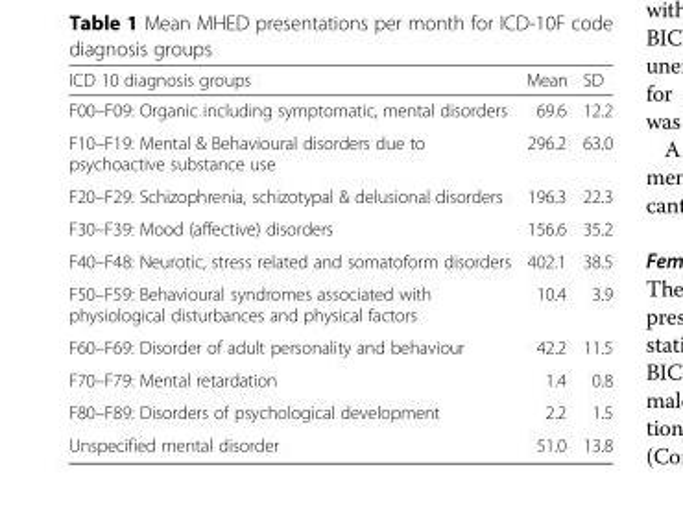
<table><thead><tr><td>ICD 10 diagnosis groups</td><td>Mean</td><td>SD</td></tr></thead><tbody><tr><td>F00–F09: Organic including symptomatic, mental disorders</td><td>69.6</td><td>12.2</td></tr><tr><td>F10–F19: Mental &amp; Behavioural disorders due to psychoactive substance use</td><td>296.2</td><td>63.0</td></tr><tr><td>F20–F29: Schizophrenia, schizotypal &amp; delusional disorders</td><td>196.3</td><td>22.3</td></tr><tr><td>F30–F39: Mood (affective) disorders</td><td>156.6</td><td>35.2</td></tr><tr><td>F40–F48: Neurotic, stress related and somatoform disorders</td><td>402.1</td><td>38.5</td></tr><tr><td>F50–F59: Behavioural syndromes associated with physiological disturbances and physical factors</td><td>10.4</td><td>3.9</td></tr><tr><td>F60–F69: Disorder of adult personality and behaviour</td><td>42.2</td><td>11.5</td></tr><tr><td>F70–F79: Mental retardation</td><td>1.4</td><td>0.8</td></tr><tr><td>F80–F89: Disorders of psychological development</td><td>2.2</td><td>1.5</td></tr><tr><td>Unspecified mental disorder</td><td>51.0</td><td>13.8</td></tr></tbody></table>